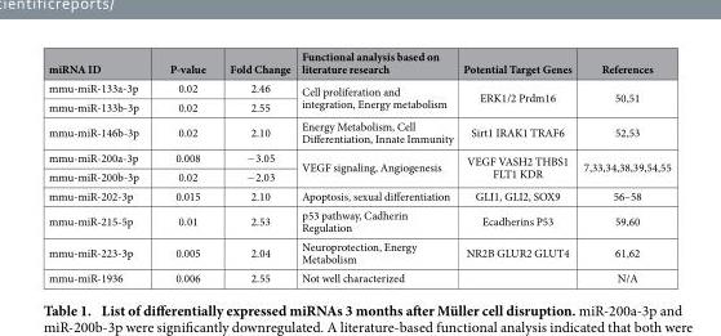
<table><thead><tr><td>miRNA ID</td><td>P-value</td><td>Fold Change</td><td>Functional analysis based on literature research</td><td>Potential Target Genes</td><td>References</td></tr></thead><tbody><tr><td>mmu-miR-133a-3p</td><td>0.02</td><td>2.46</td><td rowspan="2">Cell proliferation and integration, Energy metabolism</td><td rowspan="2">ERK1/2 Prdm16</td><td rowspan="2">50,51</td></tr><tr><td>mmu-miR-133b-3p</td><td>0.02</td><td>2.55</td></tr><tr><td>mmu-miR-146b-3p</td><td>0.02</td><td>2.10</td><td>Energy Metabolism, Cell Differentiation, Innate Immunity</td><td>Sirt1 IRAK1 TRAF6</td><td>52,53</td></tr><tr><td>mmu-miR-200a-3p</td><td>0.008</td><td>− 3.05</td><td rowspan="2">VEGF signaling, Angiogenesis</td><td rowspan="2">VEGF VASH2 THBS1 FLT1 KDR</td><td rowspan="2">7,33,34,38,39,54,55</td></tr><tr><td>mmu-miR-200b-3p</td><td>0.02</td><td>− 2.03</td></tr><tr><td>mmu-miR-202-3p</td><td>0.015</td><td>2.10</td><td>Apoptosis, sexual differentiation</td><td>GLI1, GLI2, SOX9</td><td>56–58</td></tr><tr><td>mmu-miR-215-5p</td><td>0.01</td><td>2.53</td><td>p53 pathway, Cadherin Regulation</td><td>Ecadherins P53</td><td>59,60</td></tr><tr><td>mmu-miR-223-3p</td><td>0.005</td><td>2.04</td><td>Neuroprotection, Energy Metabolism</td><td>NR2B GLUR2 GLUT4</td><td>61,62</td></tr><tr><td>mmu-miR-1936</td><td>0.006</td><td>2.55</td><td>Not well characterized</td><td></td><td>N/A</td></tr></tbody></table>